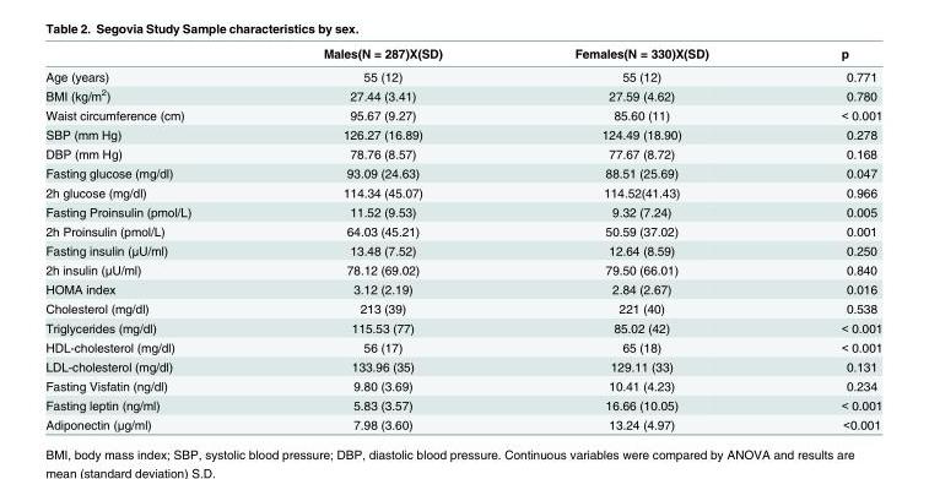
<table><thead><tr><td></td><td>Males(N = 287)X(SD)</td><td>Females(N = 330)X(SD)</td><td>p</td></tr></thead><tbody><tr><td>Age (years)</td><td>55 (12)</td><td>55 (12)</td><td>0.771</td></tr><tr><td>BMI (kg/m<sup>2</sup>)</td><td>27.44 (3.41)</td><td>27.59 (4.62)</td><td>0.780</td></tr><tr><td>Waist circumference (cm)</td><td>95.67 (9.27)</td><td>85.60 (11)</td><td>&lt; 0.001</td></tr><tr><td>SBP (mm Hg)</td><td>126.27 (16.89)</td><td>124.49 (18.90)</td><td>0.278</td></tr><tr><td>DBP (mm Hg)</td><td>78.76 (8.57)</td><td>77.67 (8.72)</td><td>0.168</td></tr><tr><td>Fasting glucose (mg/dl)</td><td>93.09 (24.63)</td><td>88.51 (25.69)</td><td>0.047</td></tr><tr><td>2h glucose (mg/dl)</td><td>114.34 (45.07)</td><td>114.52(41.43)</td><td>0.966</td></tr><tr><td>Fasting Proinsulin (pmol/L)</td><td>11.52 (9.53)</td><td>9.32 (7.24)</td><td>0.005</td></tr><tr><td>2h Proinsulin (pmol/L)</td><td>64.03 (45.21)</td><td>50.59 (37.02)</td><td>0.001</td></tr><tr><td>Fasting insulin (μU/ml)</td><td>13.48 (7.52)</td><td>12.64 (8.59)</td><td>0.250</td></tr><tr><td>2h insulin (μU/ml)</td><td>78.12 (69.02)</td><td>79.50 (66.01)</td><td>0.840</td></tr><tr><td>HOMA index</td><td>3.12 (2.19)</td><td>2.84 (2.67)</td><td>0.016</td></tr><tr><td>Cholesterol (mg/dl)</td><td>213 (39)</td><td>221 (40)</td><td>0.538</td></tr><tr><td>Triglycerides (mg/dl)</td><td>115.53 (77)</td><td>85.02 (42)</td><td>&lt; 0.001</td></tr><tr><td>HDL-cholesterol (mg/dl)</td><td>56 (17)</td><td>65 (18)</td><td>&lt; 0.001</td></tr><tr><td>LDL-cholesterol (mg/dl)</td><td>133.96 (35)</td><td>129.11 (33)</td><td>0.131</td></tr><tr><td>Fasting Visfatin (ng/dl)</td><td>9.80 (3.69)</td><td>10.41 (4.23)</td><td>0.234</td></tr><tr><td>Fasting leptin (ng/ml)</td><td>5.83 (3.57)</td><td>16.66 (10.05)</td><td>&lt; 0.001</td></tr><tr><td>Adiponectin (μg/ml)</td><td>7.98 (3.60)</td><td>13.24 (4.97)</td><td>&lt;0.001</td></tr></tbody></table>